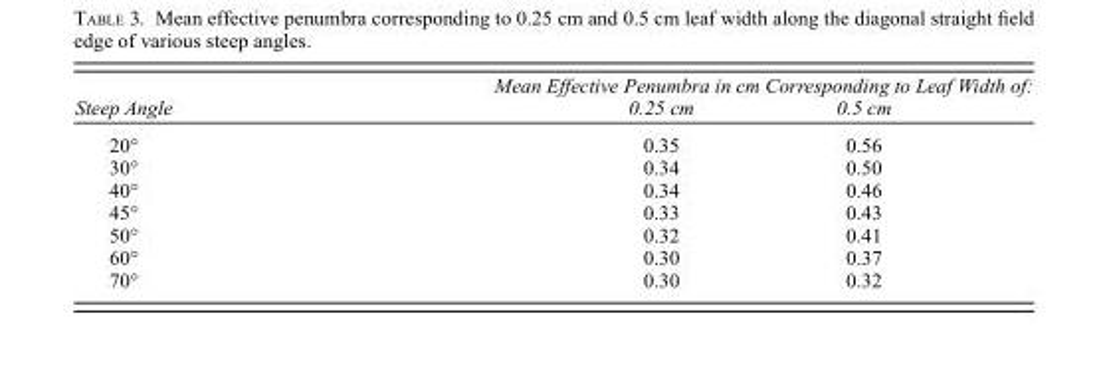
<table><thead><tr><td rowspan="2">Steep Angle</td><td colspan="2">Mean Effective Penumbra in cm Corresponding to Leaf Width of:</td></tr><tr><td>0.25 cm</td><td>0.5 cm</td></tr></thead><tbody><tr><td>20°</td><td>0.35</td><td>0.56</td></tr><tr><td>30°</td><td>0.34</td><td>0.50</td></tr><tr><td>40°</td><td>0.34</td><td>0.46</td></tr><tr><td>45°</td><td>0.33</td><td>0.43</td></tr><tr><td>50°</td><td>0.32</td><td>0.41</td></tr><tr><td>60°</td><td>0.30</td><td>0.37</td></tr><tr><td>70°</td><td>0.30</td><td>0.32</td></tr></tbody></table>